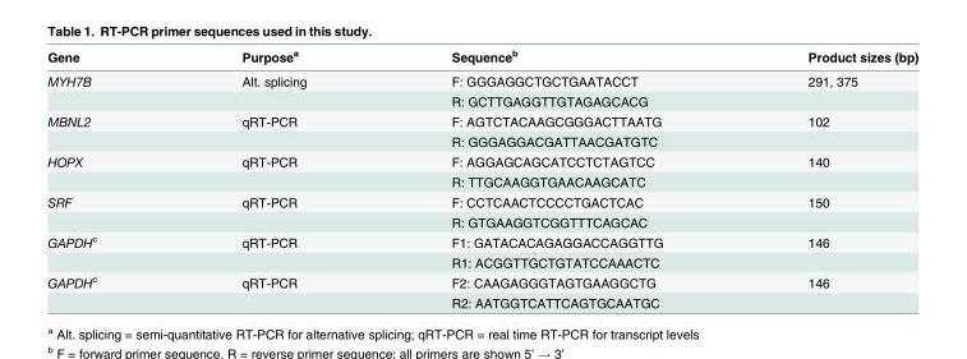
<table><thead><tr><td>Gene</td><td>Purpose<sup>a</sup></td><td>Sequence<sup>b</sup></td><td>Product sizes (bp)</td></tr></thead><tbody><tr><td rowspan="2">MYH7B</td><td>Alt. splicing</td><td>F: GGGAGGCTGCTGAATACCT</td><td>291, 375</td></tr><tr><td></td><td>R: GCTTGAGGTTGTAGAGCACG</td><td></td></tr><tr><td rowspan="2">MBNL2</td><td>qRT-PCR</td><td>F: AGTCTACAAGCGGGACTTAATG</td><td>102</td></tr><tr><td></td><td>R: GGGAGGACGATTAACGATGTC</td><td></td></tr><tr><td rowspan="2">HOPX</td><td>qRT-PCR</td><td>F: AGGAGCAGCATCCTCTAGTCC</td><td>140</td></tr><tr><td></td><td>R: TTGCAAGGTGAACAAGCATC</td><td></td></tr><tr><td rowspan="2">SRF</td><td>qRT-PCR</td><td>F: CCTCAACTCCCCTGACTCAC</td><td>150</td></tr><tr><td></td><td>R: GTGAAGGTCGGTTTCAGCAC</td><td></td></tr><tr><td rowspan="2">GAPDH<sup>c</sup></td><td>qRT-PCR</td><td>F1: GATACACAGAGGACCAGGTTG</td><td>146</td></tr><tr><td></td><td>R1: ACGGTTGCTGTATCCAAACTC</td><td></td></tr><tr><td rowspan="2">GAPDH<sup>c</sup></td><td>qRT-PCR</td><td>F2: CAAGAGGGTAGTGAAGGCTG</td><td>146</td></tr><tr><td></td><td>R2: AATGGTCATTCAGTGCAATGC</td><td></td></tr></tbody></table>